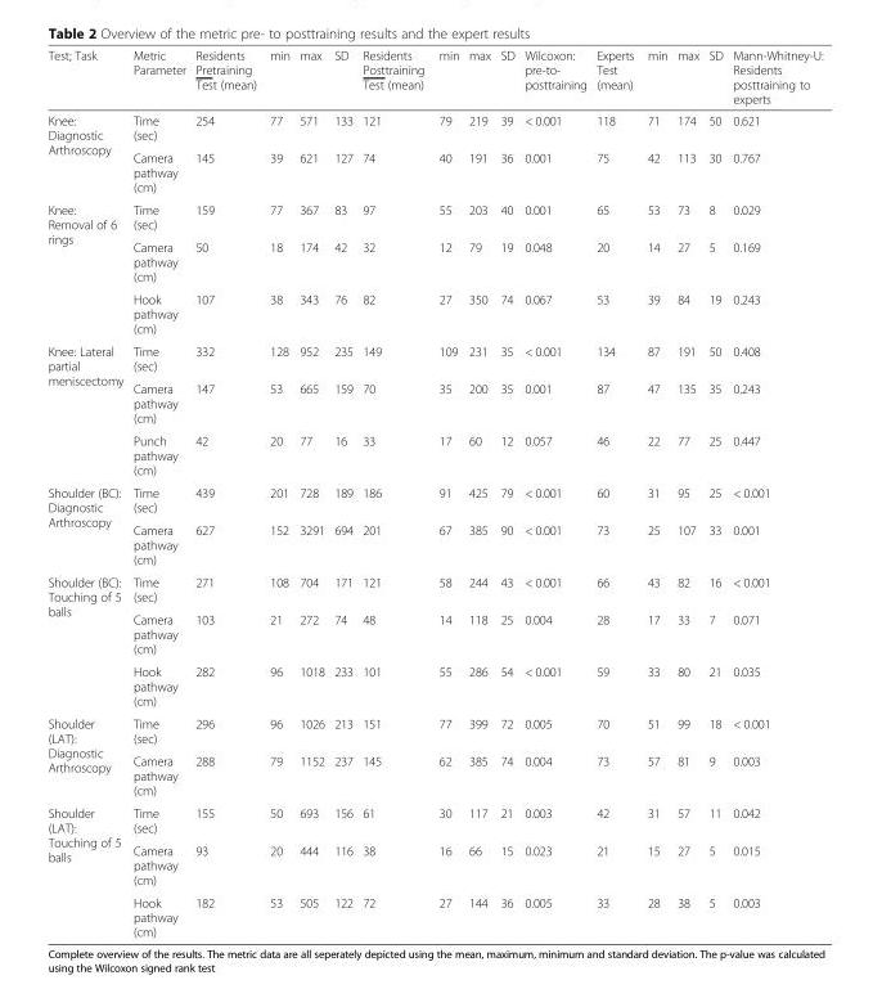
<table><thead><tr><td>Test; Task</td><td>Metric Parameter</td><td>Residents Pretraining Test (mean)</td><td>min</td><td>max</td><td>SD</td><td>Residents Posttraining Test (mean)</td><td>min</td><td>max</td><td>SD</td><td>Wilcoxon: pre-to- posttraining</td><td>Experts Test (mean)</td><td>min</td><td>max</td><td>SD</td><td>Mann-Whitney-U: Residents posttraining to experts</td></tr></thead><tbody><tr><td rowspan="2">Knee: Diagnostic Arthroscopy</td><td>Time (sec)</td><td>254</td><td>77</td><td>571</td><td>133</td><td>121</td><td>79</td><td>219</td><td>39</td><td>&lt; 0.001</td><td>118</td><td>71</td><td>174</td><td>50</td><td>0.621</td></tr><tr><td>Camera pathway (cm)</td><td>145</td><td>39</td><td>621</td><td>127</td><td>74</td><td>40</td><td>191</td><td>36</td><td>0.001</td><td>75</td><td>42</td><td>113</td><td>30</td><td>0.767</td></tr><tr><td rowspan="3">Knee: Removal of 6 rings</td><td>Time (sec)</td><td>159</td><td>77</td><td>367</td><td>83</td><td>97</td><td>55</td><td>203</td><td>40</td><td>0.001</td><td>65</td><td>53</td><td>73</td><td>8</td><td>0.029</td></tr><tr><td>Camera pathway (cm)</td><td>50</td><td>18</td><td>174</td><td>42</td><td>32</td><td>12</td><td>79</td><td>19</td><td>0.048</td><td>20</td><td>14</td><td>27</td><td>5</td><td>0.169</td></tr><tr><td>Hook pathway (cm)</td><td>107</td><td>38</td><td>343</td><td>76</td><td>82</td><td>27</td><td>350</td><td>74</td><td>0.067</td><td>53</td><td>39</td><td>84</td><td>19</td><td>0.243</td></tr><tr><td rowspan="3">Knee: Lateral partial meniscectomy</td><td>Time (sec)</td><td>332</td><td>128</td><td>952</td><td>235</td><td>149</td><td>109</td><td>231</td><td>35</td><td>&lt; 0.001</td><td>134</td><td>87</td><td>191</td><td>50</td><td>0.408</td></tr><tr><td>Camera pathway (cm)</td><td>147</td><td>53</td><td>665</td><td>159</td><td>70</td><td>35</td><td>200</td><td>35</td><td>0.001</td><td>87</td><td>47</td><td>135</td><td>35</td><td>0.243</td></tr><tr><td>Punch pathway (cm)</td><td>42</td><td>20</td><td>77</td><td>16</td><td>33</td><td>17</td><td>60</td><td>12</td><td>0.057</td><td>46</td><td>22</td><td>77</td><td>25</td><td>0.447</td></tr><tr><td rowspan="2">Shoulder (BC): Diagnostic Arthroscopy</td><td>Time (sec)</td><td>439</td><td>201</td><td>728</td><td>189</td><td>186</td><td>91</td><td>425</td><td>79</td><td>&lt; 0.001</td><td>60</td><td>31</td><td>95</td><td>25</td><td>&lt; 0.001</td></tr><tr><td>Camera pathway (cm)</td><td>627</td><td>152</td><td>3291</td><td>694</td><td>201</td><td>67</td><td>385</td><td>90</td><td>&lt; 0.001</td><td>73</td><td>25</td><td>107</td><td>33</td><td>0.001</td></tr><tr><td rowspan="3">Shoulder (BC): Touching of 5 balls</td><td>Time (sec)</td><td>271</td><td>108</td><td>704</td><td>171</td><td>121</td><td>58</td><td>244</td><td>43</td><td>&lt; 0.001</td><td>66</td><td>43</td><td>82</td><td>16</td><td>&lt; 0.001</td></tr><tr><td>Camera pathway (cm)</td><td>103</td><td>21</td><td>272</td><td>74</td><td>48</td><td>14</td><td>118</td><td>25</td><td>0.004</td><td>28</td><td>17</td><td>33</td><td>7</td><td>0.071</td></tr><tr><td>Hook pathway (cm)</td><td>282</td><td>96</td><td>1018</td><td>233</td><td>101</td><td>55</td><td>286</td><td>54</td><td>&lt; 0.001</td><td>59</td><td>33</td><td>80</td><td>21</td><td>0.035</td></tr><tr><td rowspan="2">Shoulder (LAT): Diagnostic Arthroscopy</td><td>Time (sec)</td><td>296</td><td>96</td><td>1026</td><td>213</td><td>151</td><td>77</td><td>399</td><td>72</td><td>0.005</td><td>70</td><td>51</td><td>99</td><td>18</td><td>&lt; 0.001</td></tr><tr><td>Camera pathway (cm)</td><td>288</td><td>79</td><td>1152</td><td>237</td><td>145</td><td>62</td><td>385</td><td>74</td><td>0.004</td><td>73</td><td>57</td><td>81</td><td>9</td><td>0.003</td></tr><tr><td rowspan="3">Shoulder (LAT): Touching of 5 balls</td><td>Time (sec)</td><td>155</td><td>50</td><td>693</td><td>156</td><td>61</td><td>30</td><td>117</td><td>21</td><td>0.003</td><td>42</td><td>31</td><td>57</td><td>11</td><td>0.042</td></tr><tr><td>Camera pathway (cm)</td><td>93</td><td>20</td><td>444</td><td>116</td><td>38</td><td>16</td><td>66</td><td>15</td><td>0.023</td><td>21</td><td>15</td><td>27</td><td>5</td><td>0.015</td></tr><tr><td>Hook pathway (cm)</td><td>182</td><td>53</td><td>505</td><td>122</td><td>72</td><td>27</td><td>144</td><td>36</td><td>0.005</td><td>33</td><td>28</td><td>38</td><td>5</td><td>0.003</td></tr></tbody></table>